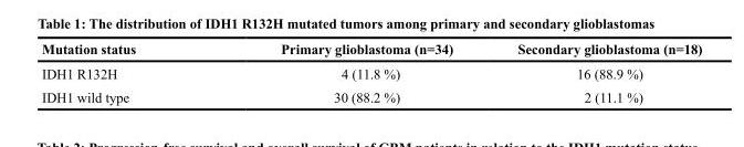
<table><thead><tr><td>Mutation status</td><td>Primary glioblastoma (n=34)</td><td>Secondary glioblastoma (n=18)</td></tr></thead><tbody><tr><td>IDH1 R132H</td><td>4 (11.8 %)</td><td>16 (88.9 %)</td></tr><tr><td>IDH1 wild type</td><td>30 (88.2 %)</td><td>2 (11.1 %)</td></tr></tbody></table>